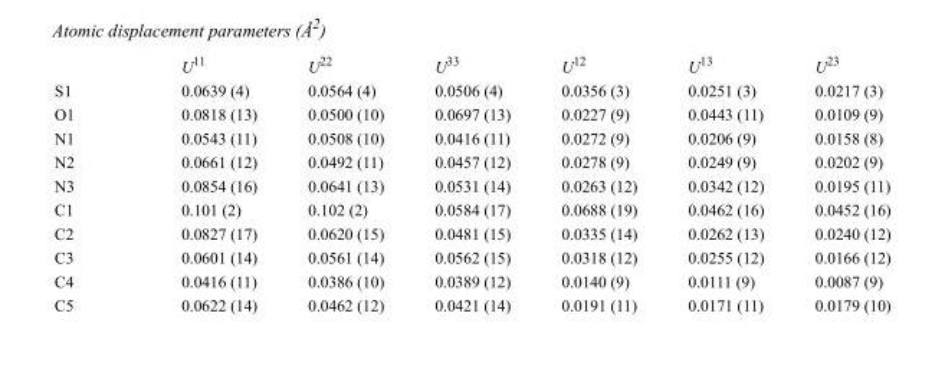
<table><thead><tr><td></td><td>U<sup>11</sup></td><td>U<sup>22</sup></td><td>U<sup>33</sup></td><td>U<sup>12</sup></td><td>U<sup>13</sup></td><td>U<sup>23</sup></td></tr></thead><tbody><tr><td>S1</td><td>0.0639 (4)</td><td>0.0564 (4)</td><td>0.0506 (4)</td><td>0.0356 (3)</td><td>0.0251 (3)</td><td>0.0217 (3)</td></tr><tr><td>O1</td><td>0.0818 (13)</td><td>0.0500 (10)</td><td>0.0697 (13)</td><td>0.0227 (9)</td><td>0.0443 (11)</td><td>0.0109 (9)</td></tr><tr><td>N1</td><td>0.0543 (11)</td><td>0.0508 (10)</td><td>0.0416 (11)</td><td>0.0272 (9)</td><td>0.0206 (9)</td><td>0.0158 (8)</td></tr><tr><td>N2</td><td>0.0661 (12)</td><td>0.0492 (11)</td><td>0.0457 (12)</td><td>0.0278 (9)</td><td>0.0249 (9)</td><td>0.0202 (9)</td></tr><tr><td>N3</td><td>0.0854 (16)</td><td>0.0641 (13)</td><td>0.0531 (14)</td><td>0.0263 (12)</td><td>0.0342 (12)</td><td>0.0195 (11)</td></tr><tr><td>C1</td><td>0.101 (2)</td><td>0.102 (2)</td><td>0.0584 (17)</td><td>0.0688 (19)</td><td>0.0462 (16)</td><td>0.0452 (16)</td></tr><tr><td>C2</td><td>0.0827 (17)</td><td>0.0620 (15)</td><td>0.0481 (15)</td><td>0.0335 (14)</td><td>0.0262 (13)</td><td>0.0240 (12)</td></tr><tr><td>C3</td><td>0.0601 (14)</td><td>0.0561 (14)</td><td>0.0562 (15)</td><td>0.0318 (12)</td><td>0.0255 (12)</td><td>0.0166 (12)</td></tr><tr><td>C4</td><td>0.0416 (11)</td><td>0.0386 (10)</td><td>0.0389 (12)</td><td>0.0140 (9)</td><td>0.0111 (9)</td><td>0.0087 (9)</td></tr><tr><td>C5</td><td>0.0622 (14)</td><td>0.0462 (12)</td><td>0.0421 (14)</td><td>0.0191 (11)</td><td>0.0171 (11)</td><td>0.0179 (10)</td></tr></tbody></table>